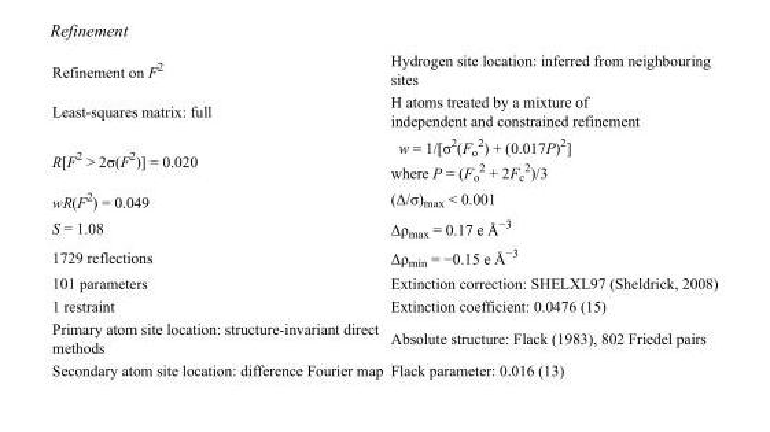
<table><tbody><tr><td>Refinement on F<sup>2</sup></td><td>Hydrogen site location: inferred from neighbouring sites</td></tr><tr><td>Least-squares matrix: full</td><td>H atoms treated by a mixture of independent and constrained refinement</td></tr><tr><td>R[F<sup>2</sup> &gt; 2σ(F<sup>2</sup>)] = 0.020</td><td>w = 1/[σ<sup>2</sup>(F<sub>o</sub> <sup>2</sup>) + (0.017P)<sup>2</sup>] where P = (F<sub>o</sub> <sup>2</sup> + 2F<sub>c</sub> <sup>2</sup>)/3</td></tr><tr><td>wR(F<sup>2</sup>) = 0.049</td><td>(Δ/σ)<sub>max</sub> &lt; 0.001</td></tr><tr><td>S = 1.08</td><td>Δρ<sub>max</sub> = 0.17 e Å<sup>−3</sup></td></tr><tr><td>1729 reflections</td><td>Δρ<sub>min</sub> = −0.15 e Å<sup>−3</sup></td></tr><tr><td>101 parameters</td><td>Extinction correction: SHELXL97 (Sheldrick, 2008)</td></tr><tr><td>1 restraint</td><td>Extinction coefficient: 0.0476 (15)</td></tr><tr><td>Primary atom site location: structure-invariant direct methods</td><td>Absolute structure: Flack (1983), 802 Friedel pairs</td></tr><tr><td>Secondary atom site location: difference Fourier map</td><td>Flack parameter: 0.016 (13)</td></tr></tbody></table>